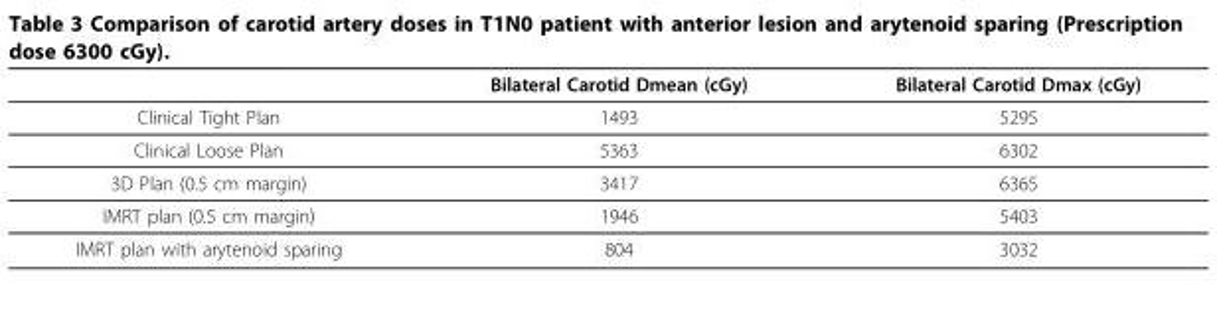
<table><thead><tr><td></td><td>Bilateral Carotid Dmean (cGy)</td><td>Bilateral Carotid Dmax (cGy)</td></tr></thead><tbody><tr><td>Clinical Tight Plan</td><td>1493</td><td>5295</td></tr><tr><td>Clinical Loose Plan</td><td>5363</td><td>6302</td></tr><tr><td>3D Plan (0.5 cm margin)</td><td>3417</td><td>6365</td></tr><tr><td>IMRT plan (0.5 cm margin)</td><td>1946</td><td>5403</td></tr><tr><td>IMRT plan with arytenoid sparing</td><td>804</td><td>3032</td></tr></tbody></table>